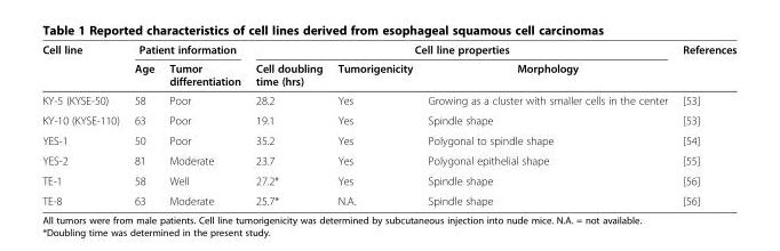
<table><thead><tr><td rowspan="2">Cell line</td><td colspan="2">Patient information</td><td colspan="3">Cell line properties</td><td rowspan="2">References</td></tr><tr><td>Age</td><td>Tumor differentiation</td><td>Cell doubling time (hrs)</td><td>Tumorigenicity</td><td>Morphology</td></tr></thead><tbody><tr><td>KY-5 (KYSE-50)</td><td>58</td><td>Poor</td><td>28.2</td><td>Yes</td><td>Growing as a cluster with smaller cells in the center</td><td>[53]</td></tr><tr><td>KY-10 (KYSE-110)</td><td>63</td><td>Poor</td><td>19.1</td><td>Yes</td><td>Spindle shape</td><td>[53]</td></tr><tr><td>YES-1</td><td>50</td><td>Poor</td><td>35.2</td><td>Yes</td><td>Polygonal to spindle shape</td><td>[54]</td></tr><tr><td>YES-2</td><td>81</td><td>Moderate</td><td>23.7</td><td>Yes</td><td>Polygonal epithelial shape</td><td>[55]</td></tr><tr><td>TE-1</td><td>58</td><td>Well</td><td>27.2*</td><td>Yes</td><td>Spindle shape</td><td>[56]</td></tr><tr><td>TE-8</td><td>63</td><td>Moderate</td><td>25.7*</td><td>N.A.</td><td>Spindle shape</td><td>[56]</td></tr></tbody></table>